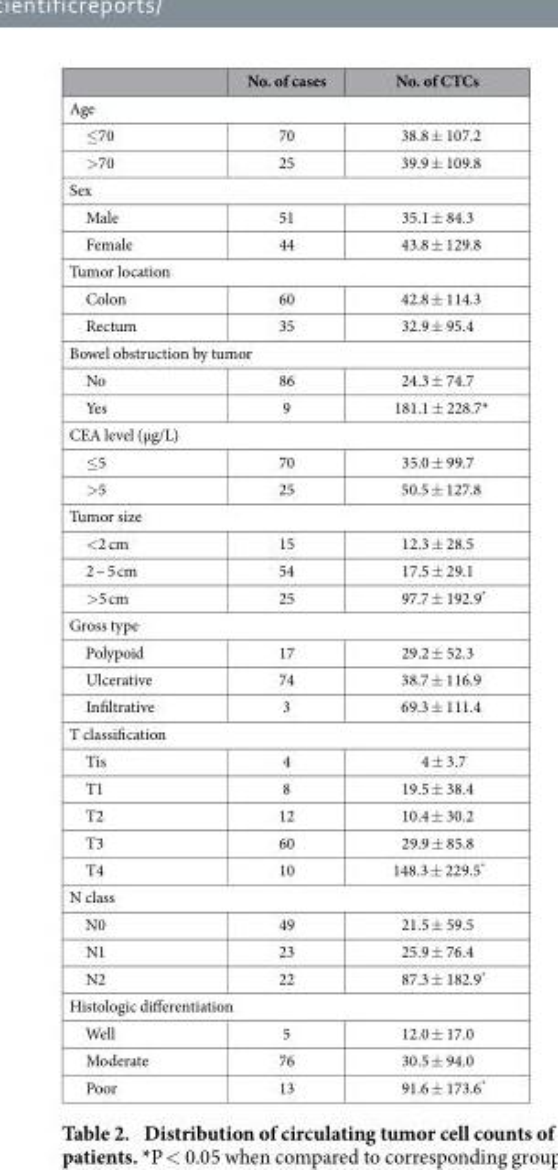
<table><thead><tr><td></td><td>No. of cases</td><td>No. of CTCs</td></tr></thead><tbody><tr><td colspan="3">Age</td></tr><tr><td>≤70</td><td>70</td><td>38.8 ± 107.2</td></tr><tr><td>&gt;70</td><td>25</td><td>39.9 ± 109.8</td></tr><tr><td colspan="3">Sex</td></tr><tr><td>Male</td><td>51</td><td>35.1 ± 84.3</td></tr><tr><td>Female</td><td>44</td><td>43.8 ± 129.8</td></tr><tr><td colspan="3">Tumor location</td></tr><tr><td>Colon</td><td>60</td><td>42.8 ± 114.3</td></tr><tr><td>Rectum</td><td>35</td><td>32.9 ± 95.4</td></tr><tr><td colspan="3">Bowel obstruction by tumor</td></tr><tr><td>No</td><td>86</td><td>24.3 ± 74.7</td></tr><tr><td>Yes</td><td>9</td><td>181.1 ± 228.7*</td></tr><tr><td colspan="3">CEA level (μg/L)</td></tr><tr><td>≤5</td><td>70</td><td>35.0 ± 99.7</td></tr><tr><td>&gt;5</td><td>25</td><td>50.5 ± 127.8</td></tr><tr><td colspan="3">Tumor size</td></tr><tr><td>&lt;2 cm</td><td>15</td><td>12.3 ± 28.5</td></tr><tr><td>2 ~ 5 cm</td><td>54</td><td>17.5 ± 29.1</td></tr><tr><td>&gt;5 cm</td><td>25</td><td>97.7 ± 192.9*</td></tr><tr><td colspan="3">Gross type</td></tr><tr><td>Polypoid</td><td>17</td><td>29.2 ± 52.3</td></tr><tr><td>Ulcerative</td><td>74</td><td>38.7 ± 116.9</td></tr><tr><td>Infiltrative</td><td>3</td><td>69.3 ± 111.4</td></tr><tr><td colspan="3">T classification</td></tr><tr><td>Tis</td><td>4</td><td>4 ± 3.7</td></tr><tr><td>T1</td><td>8</td><td>19.5 ± 38.4</td></tr><tr><td>T2</td><td>12</td><td>10.4 ± 30.2</td></tr><tr><td>T3</td><td>60</td><td>29.9 ± 85.8</td></tr><tr><td>T4</td><td>10</td><td>148.3 ± 229.5*</td></tr><tr><td colspan="3">N class</td></tr><tr><td>N0</td><td>49</td><td>21.5 ± 59.5</td></tr><tr><td>N1</td><td>23</td><td>25.9 ± 76.4</td></tr><tr><td>N2</td><td>22</td><td>87.3 ± 182.9*</td></tr><tr><td colspan="3">Histologic differentiation</td></tr><tr><td>Well</td><td>5</td><td>12.0 ± 17.0</td></tr><tr><td>Moderate</td><td>76</td><td>30.5 ± 94.0</td></tr><tr><td>Poor</td><td>13</td><td>91.6 ± 173.6*</td></tr></tbody></table>